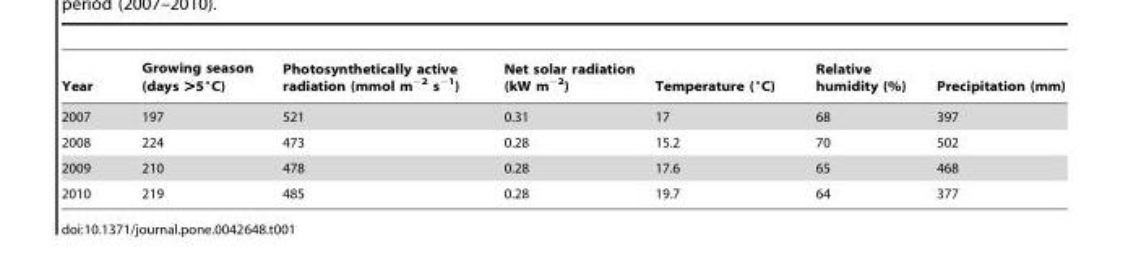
<table><thead><tr><td>Year</td><td>Growing season (days &gt;5°C)</td><td>Photosynthetically active radiation (mmol m<sup>−2</sup> s<sup>−1</sup>)</td><td>Net solar radiation (kW m<sup>−2</sup>)</td><td>Temperature (°C)</td><td>Relative humidity (%)</td><td>Precipitation (mm)</td></tr></thead><tbody><tr><td>2007</td><td>197</td><td>521</td><td>0.31</td><td>17</td><td>68</td><td>397</td></tr><tr><td>2008</td><td>224</td><td>473</td><td>0.28</td><td>15.2</td><td>70</td><td>502</td></tr><tr><td>2009</td><td>210</td><td>478</td><td>0.28</td><td>17.6</td><td>65</td><td>468</td></tr><tr><td>2010</td><td>219</td><td>485</td><td>0.28</td><td>19.7</td><td>64</td><td>377</td></tr></tbody></table>